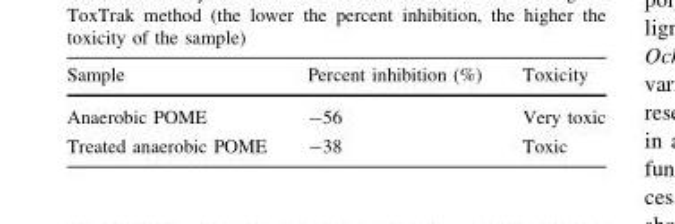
<table><thead><tr><td>Sample</td><td>Percent inhibition (%)</td><td>Toxicity</td></tr></thead><tbody><tr><td>Anaerobic POME</td><td>-56</td><td>Very toxic</td></tr><tr><td>Treated anaerobic POME</td><td>-38</td><td>Toxic</td></tr></tbody></table>